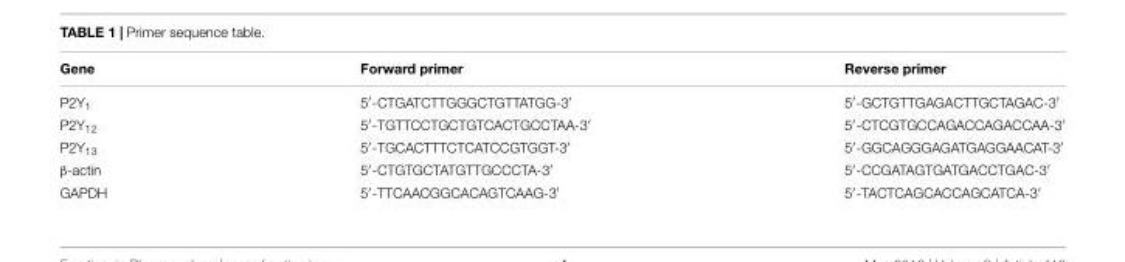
<table><thead><tr><td>Gene</td><td>Forward primer</td><td>Reverse primer</td></tr></thead><tbody><tr><td>P2Y<sub>1</sub></td><td>5′-CTGATCTTGGGCTGTTATGG-3′</td><td>5′-GCTGTTGAGACTTGCTAGAC-3′</td></tr><tr><td>P2Y<sub>12</sub></td><td>5′-TGTTCCTGCTGTCACTGCCTAA-3′</td><td>5′-CTCGTGCCAGACCAGACCAA-3′</td></tr><tr><td>P2Y<sub>13</sub></td><td>5′-TGCACTTTCTCATCCGTGGT-3′</td><td>5′-GGCAGGGAGATGAGGAACAT-3′</td></tr><tr><td>β-actin</td><td>5′-CTGTGCTATGTTGCCCTA-3′</td><td>5′-CCGATAGTGATGACCTGAC-3′</td></tr><tr><td>GAPDH</td><td>5′-TTCAACGGCACAGTCAAG-3′</td><td>5′-TACTCAGCACCAGCATCA-3′</td></tr></tbody></table>